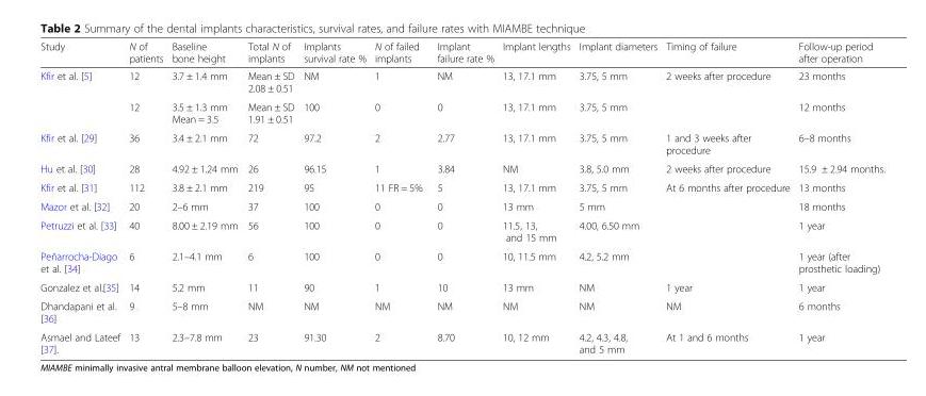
<table><thead><tr><td>Study</td><td>N of patients</td><td>Baseline bone height</td><td>Total N of implants</td><td>Implants survival rate %</td><td>N of failed implants</td><td>Implant failure rate %</td><td>Implant lengths</td><td>Implant diameters</td><td>Timing of failure</td><td>Follow-up period after operation</td></tr></thead><tbody><tr><td rowspan="2">Kfir et al. [5]</td><td>12</td><td>3.7 ± 1.4 mm</td><td>Mean ± SD 2.08 ± 0.51</td><td>NM</td><td>1</td><td>NM</td><td>13, 17.1 mm</td><td>3.75, 5 mm</td><td>2 weeks after procedure</td><td>23 months</td></tr><tr><td>12</td><td>3.5 ± 1.3 mm Mean = 3.5</td><td>Mean ± SD 1.91 ± 0.51</td><td>100</td><td>0</td><td>0</td><td>13, 17.1 mm</td><td>3.75, 5 mm</td><td></td><td>12 months</td></tr><tr><td>Kfir et al. [29]</td><td>36</td><td>3.4 ± 2.1 mm</td><td>72</td><td>97.2</td><td>2</td><td>2.77</td><td>13, 17.1 mm</td><td>3.75, 5 mm</td><td>1 and 3 weeks after procedure</td><td>6–8 months</td></tr><tr><td>Hu et al. [30]</td><td>28</td><td>4.92 ± 1.24 mm</td><td>26</td><td>96.15</td><td>1</td><td>3.84</td><td>NM</td><td>3.8, 5.0 mm</td><td>2 weeks after procedure</td><td>15.9 ± 2.94 months.</td></tr><tr><td>Kfir et al. [31]</td><td>112</td><td>3.8 ± 2.1 mm</td><td>219</td><td>95</td><td>11 FR = 5%</td><td>5</td><td>13, 17.1 mm</td><td>3.75, 5 mm</td><td>At 6 months after procedure</td><td>13 months</td></tr><tr><td>Mazor et al. [32]</td><td>20</td><td>2–6 mm</td><td>37</td><td>100</td><td>0</td><td>0</td><td>13 mm</td><td>5 mm</td><td></td><td>18 months</td></tr><tr><td>Petruzzi et al. [33]</td><td>40</td><td>8.00 ± 2.19 mm</td><td>56</td><td>100</td><td>0</td><td>0</td><td>11.5, 13, and 15 mm</td><td>4.00, 6.50 mm</td><td></td><td>1 year</td></tr><tr><td>Peñarrocha-Diago et al. [34]</td><td>6</td><td>2.1–4.1 mm</td><td>6</td><td>100</td><td>0</td><td>0</td><td>10, 11.5 mm</td><td>4.2, 5.2 mm</td><td></td><td>1 year (after prosthetic loading)</td></tr><tr><td>Gonzalez et al.[35]</td><td>14</td><td>5.2 mm</td><td>11</td><td>90</td><td>1</td><td>10</td><td>13 mm</td><td>NM</td><td>1 year</td><td>1 year</td></tr><tr><td>Dhandapani et al. [36]</td><td>9</td><td>5–8 mm</td><td>NM</td><td>NM</td><td>NM</td><td>NM</td><td>NM</td><td>NM</td><td>NM</td><td>6 months</td></tr><tr><td>Asmael and Lateef [37].</td><td>13</td><td>2.3–7.8 mm</td><td>23</td><td>91.30</td><td>2</td><td>8.70</td><td>10, 12 mm</td><td>4.2, 4.3, 4.8, and 5 mm</td><td>At 1 and 6 months</td><td>1 year</td></tr></tbody></table>